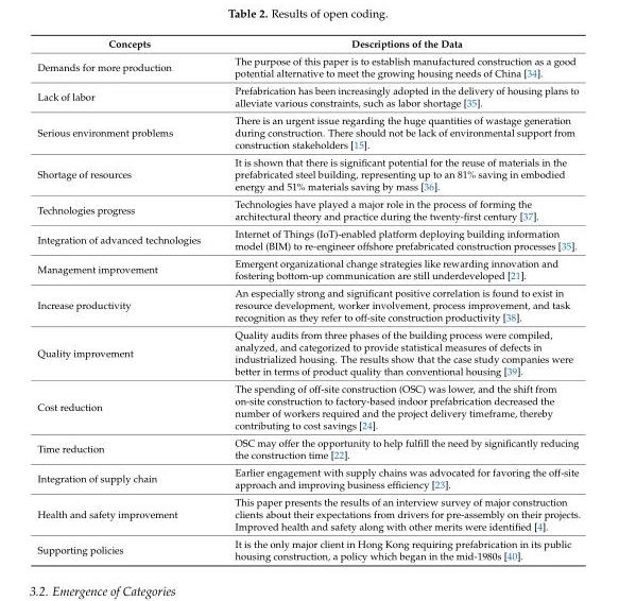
<table><thead><tr><td>Concepts</td><td>Descriptions of the Data</td></tr></thead><tbody><tr><td>Demands for more production</td><td>The purpose of this paper is to establish manufactured construction as a good potential alternative to meet the growing housing needs of China [34].</td></tr><tr><td>Lack of labor</td><td>Prefabrication has been increasingly adopted in the delivery of housing plans to alleviate various constraints, such as labor shortage [35].</td></tr><tr><td>Serious environment problems</td><td>There is an urgent issue regarding the huge quantities of wastage generation during construction. There should not be lack of environmental support from construction stakeholders [15].</td></tr><tr><td>Shortage of resources</td><td>It is shown that there is significant potential for the reuse of materials in the prefabricated steel building, representing up to an 81% saving in embodied energy and 51% materials saving by mass [36].</td></tr><tr><td>Technologies progress</td><td>Technologies have played a major role in the process of forming the architectural theory and practice during the twenty-first century [37].</td></tr><tr><td>Integration of advanced technologies</td><td>Internet of Things (IoT)-enabled platform deploying building information model (BIM) to re-engineer offshore prefabricated construction processes [35].</td></tr><tr><td>Management improvement</td><td>Emergent organizational change strategies like rewarding innovation and fostering bottom-up communication are still underdeveloped [21].</td></tr><tr><td>Increase productivity</td><td>An especially strong and significant positive correlation is found to exist in resource development, worker involvement, process improvement, and task recognition as they refer to off-site construction productivity [38].</td></tr><tr><td>Quality improvement</td><td>Quality audits from three phases of the building process were compiled, analyzed, and categorized to provide statistical measures of defects in industrialized housing. The results show that the case study companies were better in terms of product quality than conventional housing [39].</td></tr><tr><td>Cost reduction</td><td>The spending of off-site construction (OSC) was lower, and the shift from on-site construction to factory-based indoor prefabrication decreased the number of workers required and the project delivery timeframe, thereby contributing to cost savings [24].</td></tr><tr><td>Time reduction</td><td>OSC may offer the opportunity to help fulfill the need by significantly reducing the construction time [22].</td></tr><tr><td>Integration of supply chain</td><td>Earlier engagement with supply chains was advocated for favoring the off-site approach and improving business efficiency [23].</td></tr><tr><td>Health and safety improvement</td><td>This paper presents the results of an interview survey of major construction clients about their expectations from drivers for pre-assembly on their projects. Improved health and safety along with other merits were identified [4].</td></tr><tr><td>Supporting policies</td><td>It is the only major client in Hong Kong requiring prefabrication in its public housing construction, a policy which began in the mid-1980s [40].</td></tr></tbody></table>